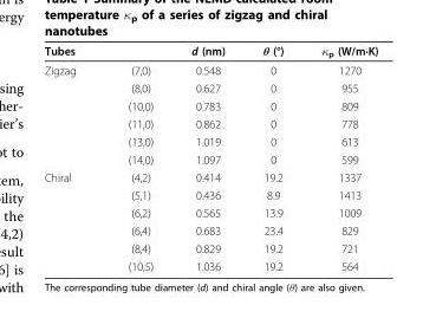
<table><thead><tr><td colspan="2">Tubes</td><td rowspan="2">d (nm) 0.548</td><td rowspan="2">θ (°) 0</td><td rowspan="2">κ<sub>p</sub> (W/m·K) 1270</td></tr><tr><td>Zigzag</td><td>(7,0)</td></tr></thead><tbody><tr><td></td><td>(8,0)</td><td>0.627</td><td>0</td><td>955</td></tr><tr><td></td><td>(10,0)</td><td>0.783</td><td>0</td><td>809</td></tr><tr><td></td><td>(11,0)</td><td>0.862</td><td>0</td><td>778</td></tr><tr><td></td><td>(13,0)</td><td>1.019</td><td>0</td><td>613</td></tr><tr><td></td><td>(14,0)</td><td>1.097</td><td>0</td><td>599</td></tr><tr><td rowspan="6">Chiral</td><td>(4,2)</td><td>0.414</td><td>19.2</td><td>1337</td></tr><tr><td>(5,1)</td><td>0.436</td><td>8.9</td><td>1413</td></tr><tr><td>(6,2)</td><td>0.565</td><td>13.9</td><td>1009</td></tr><tr><td>(6,4)</td><td>0.683</td><td>23.4</td><td>829</td></tr><tr><td>(8,4)</td><td>0.829</td><td>19.2</td><td>721</td></tr><tr><td>(10,5)</td><td>1.036</td><td>19.2</td><td>564</td></tr></tbody></table>